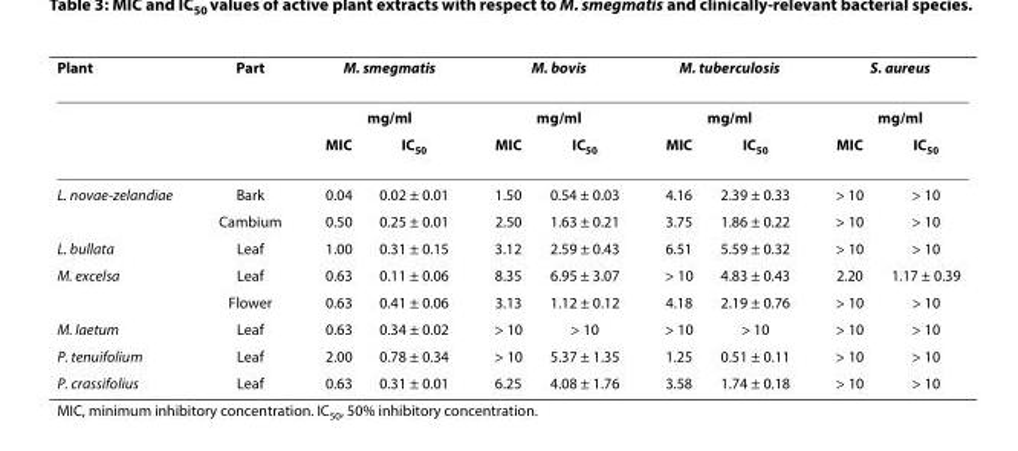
<table><thead><tr><td rowspan="3">Plant</td><td rowspan="3">Part</td><td rowspan="2" colspan="2">M. smegmatis mg/ml</td><td rowspan="2" colspan="2">M. bovis mg/ml</td><td rowspan="2" colspan="2">M. tuberculosis mg/ml</td><td rowspan="2" colspan="2">S. aureus mg/ml</td></tr><tr></tr><tr><td>MIC</td><td>IC50</td><td>MIC</td><td>IC50</td><td>MIC</td><td>IC50</td><td>MIC</td><td>IC50</td></tr></thead><tbody><tr><td rowspan="2">L. novae-zelandiae</td><td>Bark</td><td>0.04</td><td>0.02 ± 0.01</td><td>1.50</td><td>0.54 ± 0.03</td><td>4.16</td><td>2.39 ± 0.33</td><td>&gt; 10</td><td>&gt; 10</td></tr><tr><td>Cambium</td><td>0.50</td><td>0.25 ± 0.01</td><td>2.50</td><td>1.63 ± 0.21</td><td>3.75</td><td>1.86 ± 0.22</td><td>&gt; 10</td><td>&gt; 10</td></tr><tr><td>L. bullata</td><td>Leaf</td><td>1.00</td><td>0.31 ± 0.15</td><td>3.12</td><td>2.59 ± 0.43</td><td>6.51</td><td>5.59 ± 0.32</td><td>&gt; 10</td><td>&gt; 10</td></tr><tr><td rowspan="2">M. excelsa</td><td>Leaf</td><td>0.63</td><td>0.11 ± 0.06</td><td>8.35</td><td>6.95 ± 3.07</td><td>&gt; 10</td><td>4.83 ± 0.43</td><td>2.20</td><td>1.17 ± 0.39</td></tr><tr><td>Flower</td><td>0.63</td><td>0.41 ± 0.06</td><td>3.13</td><td>1.12 ± 0.12</td><td>4.18</td><td>2.19 ± 0.76</td><td>&gt; 10</td><td>&gt; 10</td></tr><tr><td>M. laetum</td><td>Leaf</td><td>0.63</td><td>0.34 ± 0.02</td><td>&gt; 10</td><td>&gt; 10</td><td>&gt; 10</td><td>&gt; 10</td><td>&gt; 10</td><td>&gt; 10</td></tr><tr><td>P. tenuifolium</td><td>Leaf</td><td>2.00</td><td>0.78 ± 0.34</td><td>&gt; 10</td><td>5.37 ± 1.35</td><td>1.25</td><td>0.51 ± 0.11</td><td>&gt; 10</td><td>&gt; 10</td></tr><tr><td>P. crassifolius</td><td>Leaf</td><td>0.63</td><td>0.31 ± 0.01</td><td>6.25</td><td>4.08 ± 1.76</td><td>3.58</td><td>1.74 ± 0.18</td><td>&gt; 10</td><td>&gt; 10</td></tr></tbody></table>